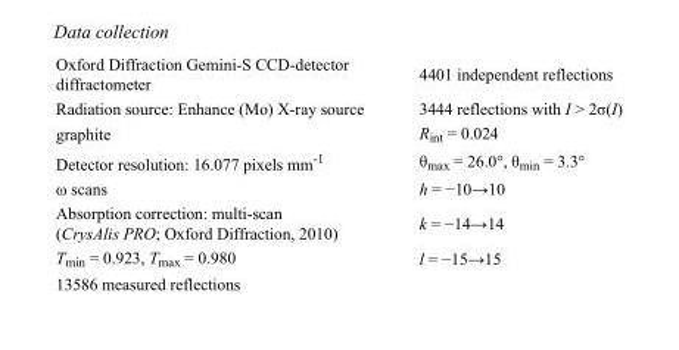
<table><tbody><tr><td>Oxford Diffraction Gemini-S CCD-detector diffractometer</td><td>4401 independent reflections</td></tr><tr><td>Radiation source: Enhance (Mo) X-ray source</td><td>3444 reflections with I &gt; 2σ(I)</td></tr><tr><td>graphite</td><td>R<sub>int</sub> = 0.024</td></tr><tr><td>Detector resolution: 16.077 pixels mm<sup>-1</sup></td><td>θ<sub>max</sub> = 26.0°, θ<sub>min</sub> = 3.3°</td></tr><tr><td>ω scans</td><td>h = −10→10</td></tr><tr><td>Absorption correction: multi-scan (CrysAlis PRO; Oxford Diffraction, 2010)</td><td>k = −14→14</td></tr><tr><td>T<sub>min</sub> = 0.923, T<sub>max</sub> = 0.980</td><td>l = −15→15</td></tr><tr><td>13586 measured reflections</td><td></td></tr></tbody></table>